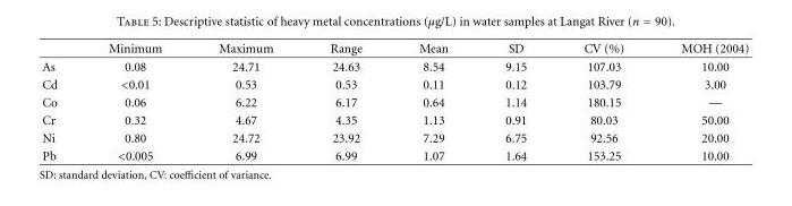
<table><thead><tr><td></td><td>Minimum</td><td>Maximum</td><td>Range</td><td>Mean</td><td>SD</td><td>CV (%)</td><td>MOH (2004)</td></tr></thead><tbody><tr><td>As</td><td>0.08</td><td>24.71</td><td>24.63</td><td>8.54</td><td>9.15</td><td>107.03</td><td>10.00</td></tr><tr><td>Cd</td><td>&lt;0.01</td><td>0.53</td><td>0.53</td><td>0.11</td><td>0.12</td><td>103.79</td><td>3.00</td></tr><tr><td>Co</td><td>0.06</td><td>6.22</td><td>6.17</td><td>0.64</td><td>1.14</td><td>180.15</td><td>—</td></tr><tr><td>Cr</td><td>0.32</td><td>4.67</td><td>4.35</td><td>1.13</td><td>0.91</td><td>80.03</td><td>50.00</td></tr><tr><td>Ni</td><td>0.80</td><td>24.72</td><td>23.92</td><td>7.29</td><td>6.75</td><td>92.56</td><td>20.00</td></tr><tr><td>Pb</td><td>&lt;0.005</td><td>6.99</td><td>6.99</td><td>1.07</td><td>1.64</td><td>153.25</td><td>10.00</td></tr></tbody></table>